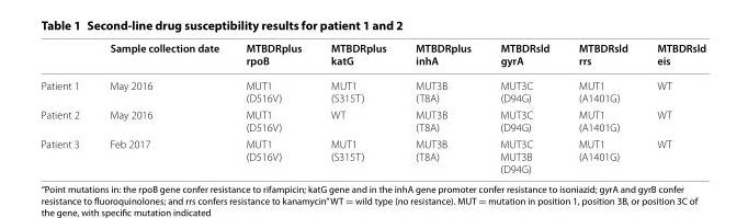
<table><thead><tr><td></td><td>Sample collection date</td><td>MTBDRplus rpoB</td><td>MTBDRplus katG</td><td>MTBDRplus inhA</td><td>MTBDRsld gyrA</td><td>MTBDRsld rrs</td><td>MTBDRsld eis</td></tr></thead><tbody><tr><td>Patient 1</td><td>May 2016</td><td>MUT1 (D516V)</td><td>MUT1 (S315T)</td><td>MUT3B (T8A)</td><td>MUT3C (D94G)</td><td>MUT1 (A1401G)</td><td>WT</td></tr><tr><td>Patient 2</td><td>May 2016</td><td>MUT1 (D516V)</td><td>WT</td><td>MUT3B (T8A)</td><td>MUT3C (D94G)</td><td>MUT1 (A1401G)</td><td>WT</td></tr><tr><td>Patient 3</td><td>Feb 2017</td><td>MUT1 (D516V)</td><td>MUT1 (S315T)</td><td>MUT3B (T8A)</td><td>MUT3C MUT3B (D94G)</td><td>MUT1 (A1401G)</td><td>WT</td></tr></tbody></table>